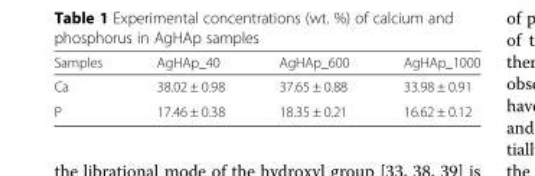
<table><thead><tr><td>Samples</td><td>AgHAp_40</td><td>AgHAp_600</td><td>AgHAp_1000</td></tr></thead><tbody><tr><td>Ca</td><td>38.02 ± 0.98</td><td>37.65 ± 0.88</td><td>33.98 ± 0.91</td></tr><tr><td>P</td><td>17.46 ± 0.38</td><td>18.35 ± 0.21</td><td>16.62 ± 0.12</td></tr></tbody></table>